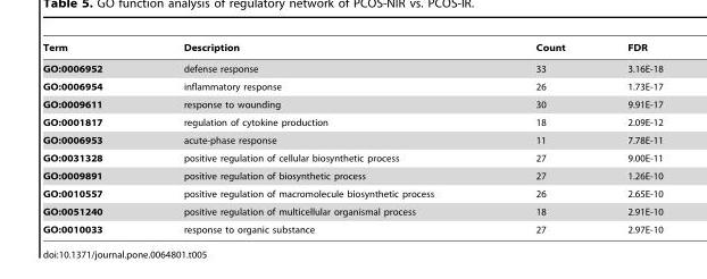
<table><thead><tr><td>Term</td><td>Description</td><td>Count</td><td>FDR</td></tr></thead><tbody><tr><td>GO:0006952</td><td>defense response</td><td>33</td><td>3.16E-18</td></tr><tr><td>GO:0006954</td><td>inflammatory response</td><td>26</td><td>1.73E-17</td></tr><tr><td>GO:0009611</td><td>response to wounding</td><td>30</td><td>9.91E-17</td></tr><tr><td>GO:0001817</td><td>regulation of cytokine production</td><td>18</td><td>2.09E-12</td></tr><tr><td>GO:0006953</td><td>acute-phase response</td><td>11</td><td>7.78E-11</td></tr><tr><td>GO:0031328</td><td>positive regulation of cellular biosynthetic process</td><td>27</td><td>9.00E-11</td></tr><tr><td>GO:0009891</td><td>positive regulation of biosynthetic process</td><td>27</td><td>1.26E-10</td></tr><tr><td>GO:0010557</td><td>positive regulation of macromolecule biosynthetic process</td><td>26</td><td>2.65E-10</td></tr><tr><td>GO:0051240</td><td>positive regulation of multicellular organismal process</td><td>18</td><td>2.91E-10</td></tr><tr><td>GO:0010033</td><td>response to organic substance</td><td>27</td><td>2.97E-10</td></tr></tbody></table>